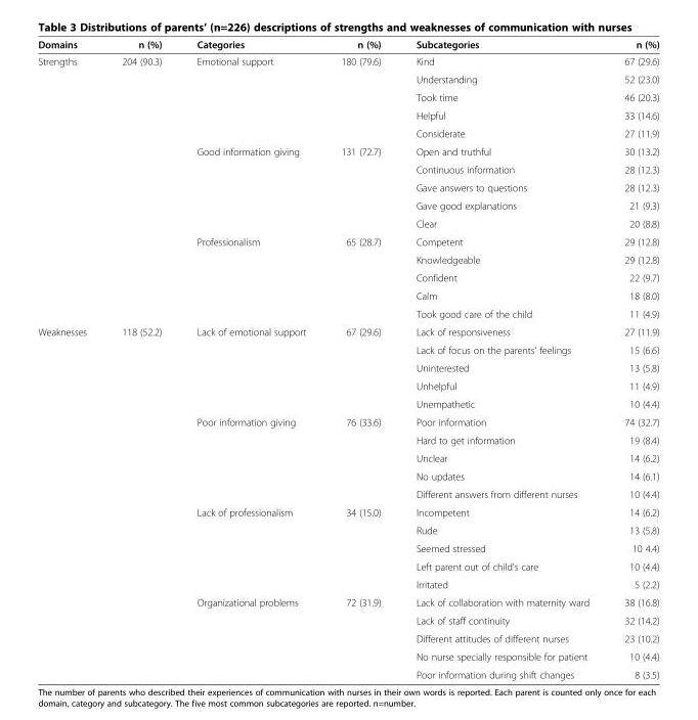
<table><thead><tr><td>Domains</td><td>n (%)</td><td>Categories</td><td>n (%)</td><td>Subcategories</td><td>n (%)</td></tr></thead><tbody><tr><td rowspan="15">Strengths</td><td rowspan="15">204 (90.3)</td><td rowspan="5">Emotional support</td><td rowspan="5">180 (79.6)</td><td>Kind</td><td>67 (29.6)</td></tr><tr><td>Understanding</td><td>52 (23.0)</td></tr><tr><td>Took time</td><td>46 (20.3)</td></tr><tr><td>Helpful</td><td>33 (14.6)</td></tr><tr><td>Considerate</td><td>27 (11.9)</td></tr><tr><td rowspan="5">Good information giving</td><td rowspan="5">131 (72.7)</td><td>Open and truthful</td><td>30 (13.2)</td></tr><tr><td>Continuous information</td><td>28 (12.3)</td></tr><tr><td>Gave answers to questions</td><td>28 (12.3)</td></tr><tr><td>Gave good explanations</td><td>21 (9.3)</td></tr><tr><td>Clear</td><td>20 (8.8)</td></tr><tr><td rowspan="5">Professionalism</td><td rowspan="5">65 (28.7)</td><td>Competent</td><td>29 (12.8)</td></tr><tr><td>Knowledgeable</td><td>29 (12.8)</td></tr><tr><td>Confident</td><td>22 (9.7)</td></tr><tr><td>Calm</td><td>18 (8.0)</td></tr><tr><td>Took good care of the child</td><td>11 (4.9)</td></tr><tr><td rowspan="20">Weaknesses</td><td rowspan="19">118 (52.2)</td><td rowspan="5">Lack of emotional support</td><td rowspan="5">67 (29.6)</td><td>Lack of responsiveness</td><td>27 (11.9)</td></tr><tr><td>Lack of focus on the parents&#x27; feelings</td><td>15 (6.6)</td></tr><tr><td>Uninterested</td><td>13 (5.8)</td></tr><tr><td>Unhelpful</td><td>11 (4.9)</td></tr><tr><td>Unempathetic</td><td>10 (4.4)</td></tr><tr><td rowspan="5">Poor information giving</td><td rowspan="5">76 (33.6)</td><td>Poor information</td><td>74 (32.7)</td></tr><tr><td>Hard to get information</td><td>19 (8.4)</td></tr><tr><td>Unclear</td><td>14 (6.2)</td></tr><tr><td>No updates</td><td>14 (6.1)</td></tr><tr><td>Different answers from different nurses</td><td>10 (4.4)</td></tr><tr><td rowspan="5">Lack of professionalism</td><td rowspan="5">34 (15.0)</td><td>Incompetent</td><td>14 (6.2)</td></tr><tr><td>Rude</td><td>13 (5.8)</td></tr><tr><td>Seemed stressed</td><td>10 4.4)</td></tr><tr><td>Left parent out of child&#x27;s care</td><td>10 (4.4)</td></tr><tr><td>Irritated</td><td>5 (2.2)</td></tr><tr><td rowspan="4">Organizational problems</td><td rowspan="4">72 (31.9)</td><td>Lack of collaboration with maternity ward</td><td>38 (16.8)</td></tr><tr><td>Lack of staff continuity</td><td>32 (14.2)</td></tr><tr><td>Different attitudes of different nurses</td><td>23 (10.2)</td></tr><tr><td>No nurse specially responsible for patient</td><td>10 (4.4)</td></tr><tr><td></td><td></td><td></td><td>Poor information during shift changes</td><td>8 (3.5)</td></tr></tbody></table>